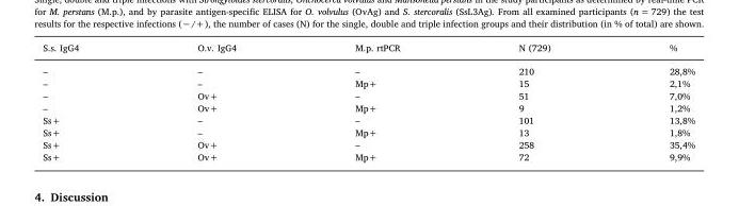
<table><thead><tr><td>S.s. IgG4</td><td>O.v. IgG4</td><td>M.p. rtPCR</td><td>N (729)</td><td>%</td></tr></thead><tbody><tr><td>–</td><td>–</td><td>–</td><td>210</td><td>28,8%</td></tr><tr><td>–</td><td>–</td><td>Mp+</td><td>15</td><td>2,1%</td></tr><tr><td>–</td><td>Ov+</td><td>–</td><td>51</td><td>7,0%</td></tr><tr><td>–</td><td>Ov+</td><td>Mp+</td><td>9</td><td>1,2%</td></tr><tr><td>Ss+</td><td>–</td><td>–</td><td>101</td><td>13,8%</td></tr><tr><td>Ss+</td><td>–</td><td>Mp+</td><td>13</td><td>1,8%</td></tr><tr><td>Ss+</td><td>Ov+</td><td>–</td><td>258</td><td>35,4%</td></tr><tr><td>Ss+</td><td>Ov+</td><td>Mp+</td><td>72</td><td>9,9%</td></tr></tbody></table>